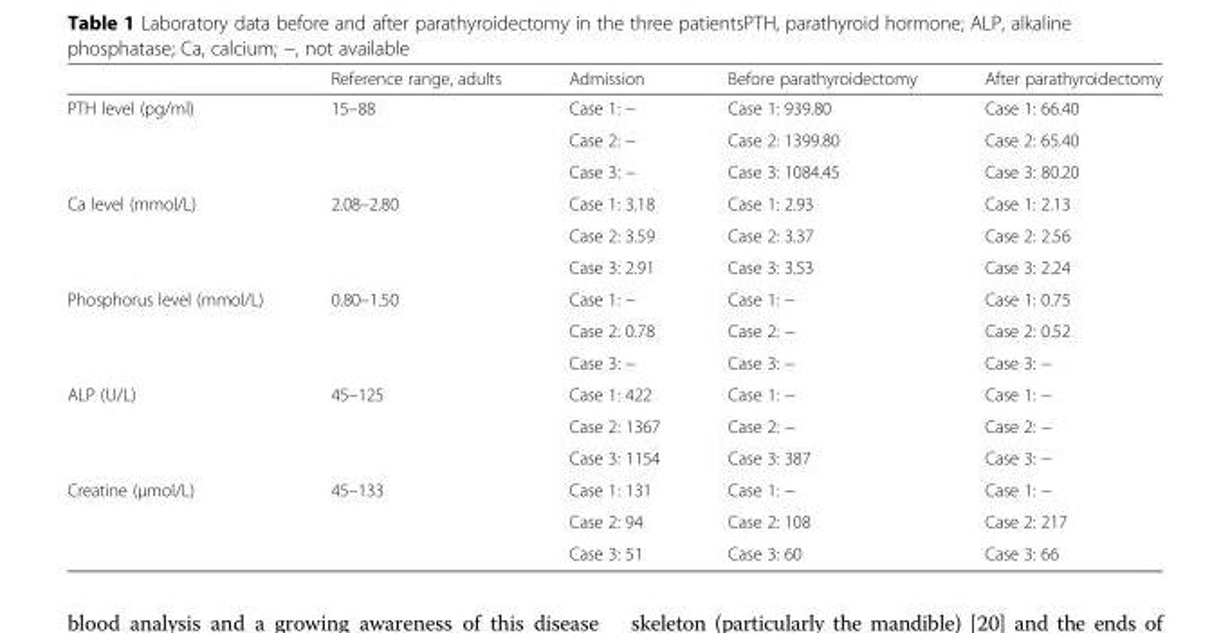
<table><thead><tr><td></td><td>Reference range, adults</td><td>Admission</td><td>Before parathyroidectomy</td><td>After parathyroidectomy</td></tr></thead><tbody><tr><td rowspan="3">PTH level (pg/ml)</td><td>15–88</td><td>Case 1: −</td><td>Case 1: 939.80</td><td>Case 1: 66.40</td></tr><tr><td></td><td>Case 2: −</td><td>Case 2: 1399.80</td><td>Case 2: 65.40</td></tr><tr><td></td><td>Case 3: −</td><td>Case 3: 1084.45</td><td>Case 3: 80.20</td></tr><tr><td rowspan="3">Ca level (mmol/L)</td><td>2.08–2.80</td><td>Case 1: 3.18</td><td>Case 1: 2.93</td><td>Case 1: 2.13</td></tr><tr><td></td><td>Case 2: 3.59</td><td>Case 2: 3.37</td><td>Case 2: 2.56</td></tr><tr><td></td><td>Case 3: 2.91</td><td>Case 3: 3.53</td><td>Case 3: 2.24</td></tr><tr><td rowspan="3">Phosphorus level (mmol/L)</td><td>0.80–1.50</td><td>Case 1: −</td><td>Case 1: −</td><td>Case 1: 0.75</td></tr><tr><td></td><td>Case 2: 0.78</td><td>Case 2: −</td><td>Case 2: 0.52</td></tr><tr><td></td><td>Case 3: −</td><td>Case 3: −</td><td>Case 3: −</td></tr><tr><td rowspan="3">ALP (U/L)</td><td>45–125</td><td>Case 1: 422</td><td>Case 1: −</td><td>Case 1: −</td></tr><tr><td></td><td>Case 2: 1367</td><td>Case 2: −</td><td>Case 2: −</td></tr><tr><td></td><td>Case 3: 1154</td><td>Case 3: 387</td><td>Case 3: −</td></tr><tr><td rowspan="3">Creatine (μmol/L)</td><td>45–133</td><td>Case 1: 131</td><td>Case 1: −</td><td>Case 1: −</td></tr><tr><td></td><td>Case 2: 94</td><td>Case 2: 108</td><td>Case 2: 217</td></tr><tr><td></td><td>Case 3: 51</td><td>Case 3: 60</td><td>Case 3: 66</td></tr></tbody></table>